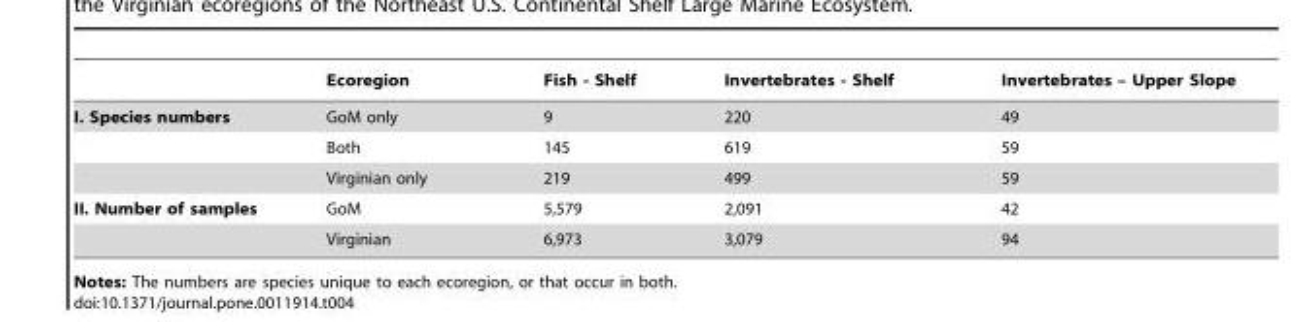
<table><thead><tr><td></td><td>Ecoregion</td><td>Fish - Shelf</td><td>Invertebrates - Shelf</td><td>Invertebrates – Upper Slope</td></tr></thead><tbody><tr><td rowspan="3">I. Species numbers</td><td>GoM only</td><td>9</td><td>220</td><td>49</td></tr><tr><td>Both</td><td>145</td><td>619</td><td>59</td></tr><tr><td>Virginian only</td><td>219</td><td>499</td><td>59</td></tr><tr><td rowspan="2">II. Number of samples</td><td>GoM</td><td>5,579</td><td>2,091</td><td>42</td></tr><tr><td>Virginian</td><td>6,973</td><td>3,079</td><td>94</td></tr></tbody></table>